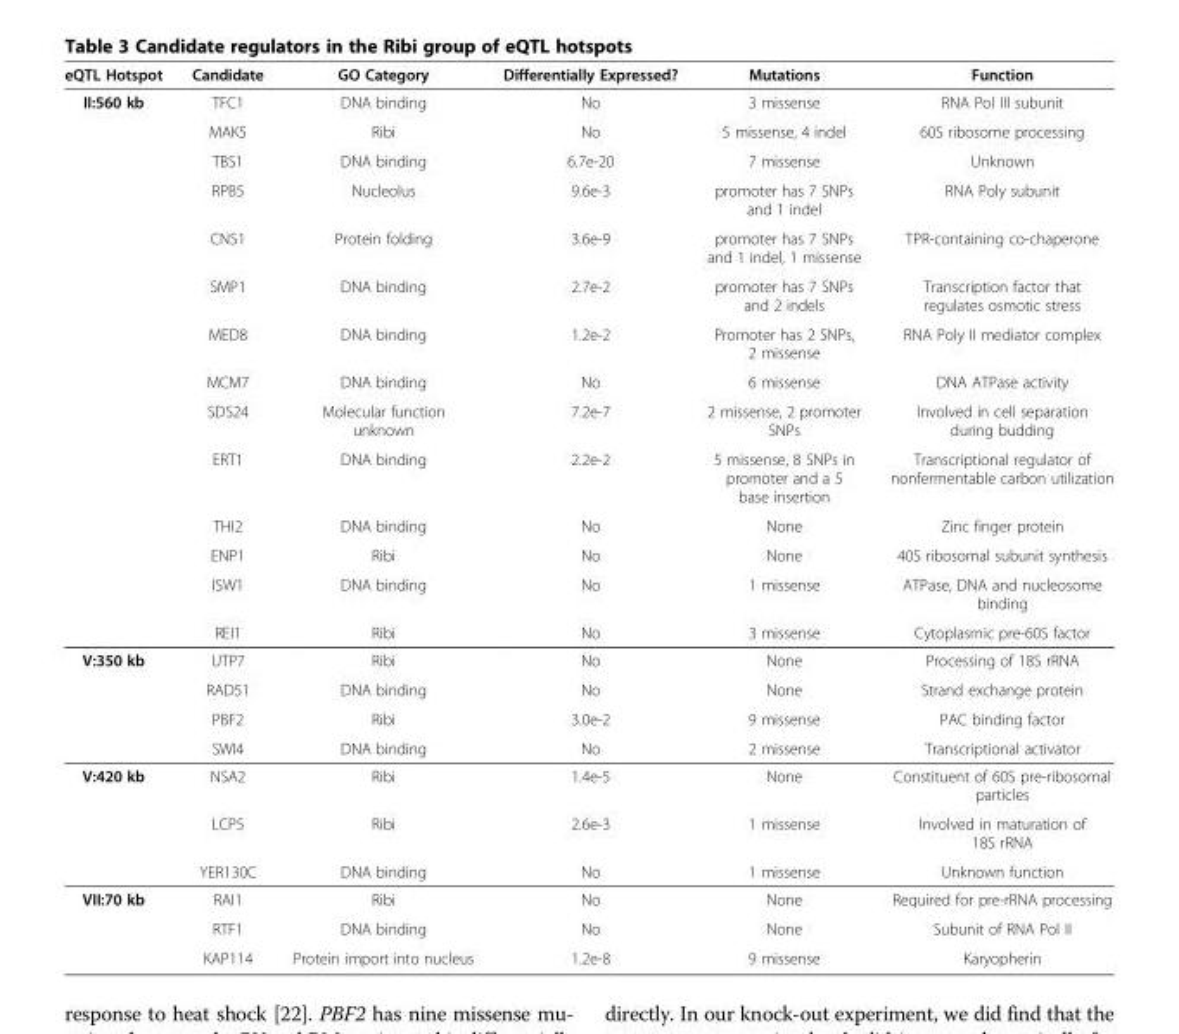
<table><thead><tr><td>eQTL Hotspot</td><td>Candidate</td><td>GO Category</td><td>Differentially Expressed?</td><td>Mutations</td><td>Function</td></tr></thead><tbody><tr><td rowspan="14">II:560 kb</td><td>TFC1</td><td>DNA binding</td><td>No</td><td>3 missense</td><td>RNA Pol III subunit</td></tr><tr><td>MAK5</td><td>Ribi</td><td>No</td><td>5 missense, 4 indel</td><td>60S ribosome processing</td></tr><tr><td>TBS1</td><td>DNA binding</td><td>6.7e-20</td><td>7 missense</td><td>Unknown</td></tr><tr><td>RPB5</td><td>Nucleolus</td><td>9.6e-3</td><td>promoter has 7 SNPs and 1 indel</td><td>RNA Poly subunit</td></tr><tr><td>CNS1</td><td>Protein folding</td><td>3.6e-9</td><td>promoter has 7 SNPs and 1 indel, 1 missense</td><td>TPR-containing co-chaperone</td></tr><tr><td>SMP1</td><td>DNA binding</td><td>2.7e-2</td><td>promoter has 7 SNPs and 2 indels</td><td>Transcription factor that regulates osmotic stress</td></tr><tr><td>MED8</td><td>DNA binding</td><td>1.2e-2</td><td>Promoter has 2 SNPs, 2 missense</td><td>RNA Poly II mediator complex</td></tr><tr><td>MCM7</td><td>DNA binding</td><td>No</td><td>6 missense</td><td>DNA ATPase activity</td></tr><tr><td>SDS24</td><td>Molecular function unknown</td><td>7.2e-7</td><td>2 missense, 2 promoter SNPs</td><td>Involved in cell separation during budding</td></tr><tr><td>ERT1</td><td>DNA binding</td><td>2.2e-2</td><td>5 missense, 8 SNPs in promoter and a 5 base insertion</td><td>Transcriptional regulator of nonfermentable carbon utilization</td></tr><tr><td>THI2</td><td>DNA binding</td><td>No</td><td>None</td><td>Zinc finger protein</td></tr><tr><td>ENP1</td><td>Ribi</td><td>No</td><td>None</td><td>40S ribosomal subunit synthesis</td></tr><tr><td>ISW1</td><td>DNA binding</td><td>No</td><td>1 missense</td><td>ATPase, DNA and nucleosome binding</td></tr><tr><td>REI1</td><td>Ribi</td><td>No</td><td>3 missense</td><td>Cytoplasmic pre-60S factor</td></tr><tr><td rowspan="4">V:350 kb</td><td>UTP7</td><td>Ribi</td><td>No</td><td>None</td><td>Processing of 18S rRNA</td></tr><tr><td>RAD51</td><td>DNA binding</td><td>No</td><td>None</td><td>Strand exchange protein</td></tr><tr><td>PBF2</td><td>Ribi</td><td>3.0e-2</td><td>9 missense</td><td>PAC binding factor</td></tr><tr><td>SWI4</td><td>DNA binding</td><td>No</td><td>2 missense</td><td>Transcriptional activator</td></tr><tr><td rowspan="3">V:420 kb</td><td>NSA2</td><td>Ribi</td><td>1.4e-5</td><td>None</td><td>Constituent of 60S pre-ribosomal particles</td></tr><tr><td>LCP5</td><td>Ribi</td><td>2.6e-3</td><td>1 missense</td><td>Involved in maturation of 18S rRNA</td></tr><tr><td>YER130C</td><td>DNA binding</td><td>No</td><td>1 missense</td><td>Unknown function</td></tr><tr><td rowspan="3">VII:70 kb</td><td>RAI1</td><td>Ribi</td><td>No</td><td>None</td><td>Required for pre-rRNA processing</td></tr><tr><td>RTF1</td><td>DNA binding</td><td>No</td><td>None</td><td>Subunit of RNA Pol II</td></tr><tr><td>KAP114</td><td>Protein import into nucleus</td><td>1.2e-8</td><td>9 missense</td><td>Karyopherin</td></tr></tbody></table>